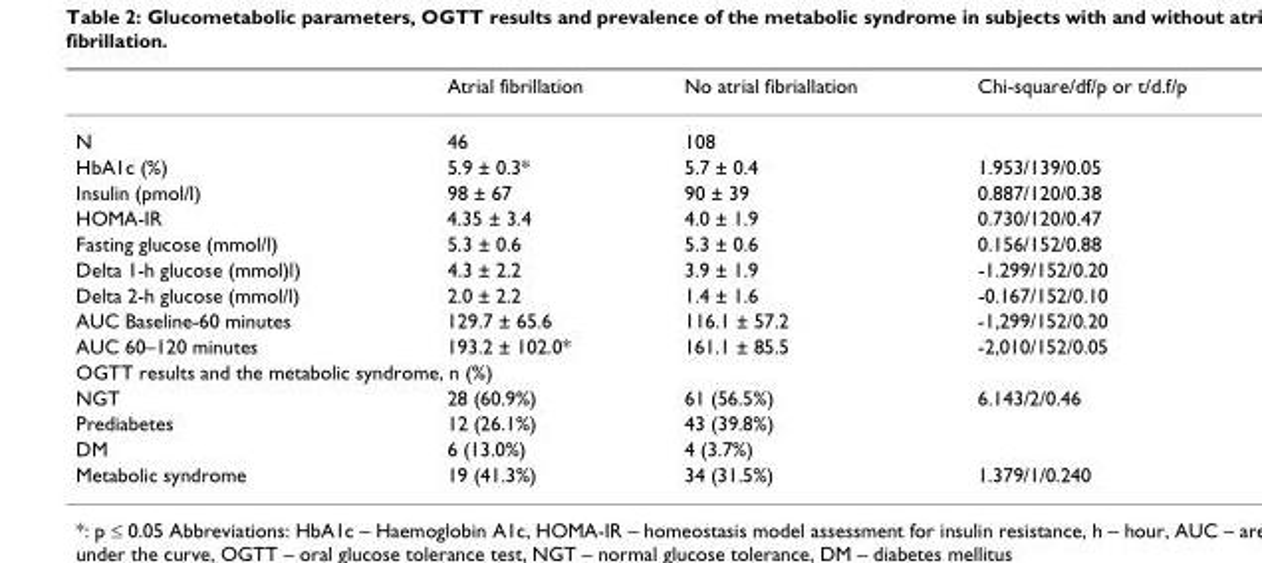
<table><thead><tr><td></td><td>Atrial fibrillation</td><td>No atrial fibriallation</td><td>Chi-square/df/p or t/d.f/p</td></tr></thead><tbody><tr><td>N</td><td>46</td><td>108</td><td></td></tr><tr><td>HbA1c (%)</td><td>5.9 ± 0.3*</td><td>5.7 ± 0.4</td><td>1.953/139/0.05</td></tr><tr><td>Insulin (pmol/l)</td><td>98 ± 67</td><td>90 ± 39</td><td>0.887/120/0.38</td></tr><tr><td>HOMA-IR</td><td>4.35 ± 3.4</td><td>4.0 ± 1.9</td><td>0.730/120/0.47</td></tr><tr><td>Fasting glucose (mmol/l)</td><td>5.3 ± 0.6</td><td>5.3 ± 0.6</td><td>0.156/152/0.88</td></tr><tr><td>Delta 1-h glucose (mmol)l)</td><td>4.3 ± 2.2</td><td>3.9 ± 1.9</td><td>-1.299/152/0.20</td></tr><tr><td>Delta 2-h glucose (mmol/l)</td><td>2.0 ± 2.2</td><td>1.4 ± 1.6</td><td>-0.167/152/0.10</td></tr><tr><td>AUC Baseline-60 minutes</td><td>129.7 ± 65.6</td><td>116.1 ± 57.2</td><td>-1,299/152/0.20</td></tr><tr><td>AUC 60–120 minutes</td><td>193.2 ± 102.0*</td><td>161.1 ± 85.5</td><td>-2,010/152/0.05</td></tr><tr><td colspan="4">OGTT results and the metabolic syndrome, n (%)</td></tr><tr><td>NGT</td><td>28 (60.9%)</td><td>61 (56.5%)</td><td>6.143/2/0.46</td></tr><tr><td>Prediabetes</td><td>12 (26.1%)</td><td>43 (39.8%)</td><td></td></tr><tr><td>DM</td><td>6 (13.0%)</td><td>4 (3.7%)</td><td></td></tr><tr><td>Metabolic syndrome</td><td>19 (41.3%)</td><td>34 (31.5%)</td><td>1.379/1/0.240</td></tr></tbody></table>